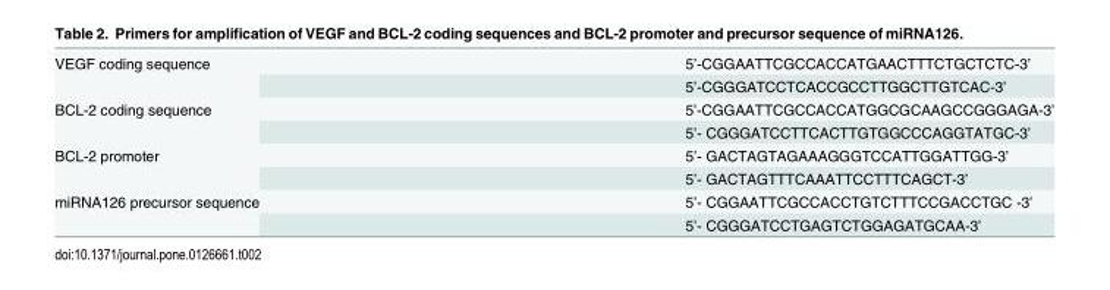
<table><tbody><tr><td rowspan="2">VEGF coding sequence</td><td>5’-CGGAATTCGCCACCATGAACTTTCTGCTCTC-3’</td></tr><tr><td>5’-CGGGATCCTCACCGCCTTGGCTTGTCAC-3’</td></tr><tr><td rowspan="2">BCL-2 coding sequence</td><td>5’-CGGAATTCGCCACCATGGCGCAAGCCGGGAGA-3’</td></tr><tr><td>5’- CGGGATCCTTCACTTGTGGCCCAGGTATGC-3’</td></tr><tr><td rowspan="2">BCL-2 promoter</td><td>5’- GACTAGTAGAAAGGGTCCATTGGATTGG-3’</td></tr><tr><td>5’- GACTAGTTTCAAATTCCTTTCAGCT-3’</td></tr><tr><td rowspan="2">miRNA126 precursor sequence</td><td>5’- CGGAATTCGCCACCTGTCTTTCCGACCTGC -3’</td></tr><tr><td>5’- CGGGATCCTGAGTCTGGAGATGCAA-3’</td></tr></tbody></table>